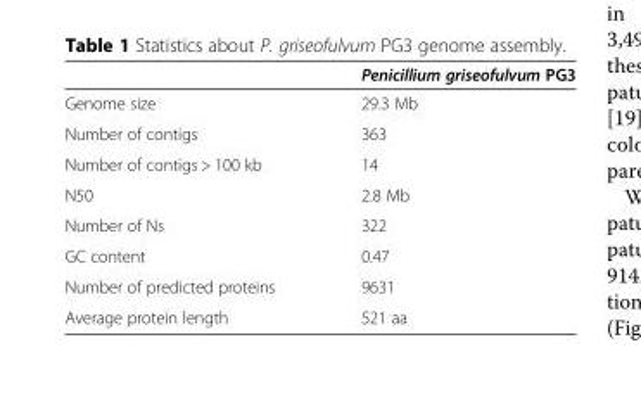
<table><thead><tr><td></td><td>Penicillium griseofulvum PG3</td></tr></thead><tbody><tr><td>Genome size</td><td>29.3 Mb</td></tr><tr><td>Number of contigs</td><td>363</td></tr><tr><td>Number of contigs &gt; 100 kb</td><td>14</td></tr><tr><td>N50</td><td>2.8 Mb</td></tr><tr><td>Number of Ns</td><td>322</td></tr><tr><td>GC content</td><td>0.47</td></tr><tr><td>Number of predicted proteins</td><td>9631</td></tr><tr><td>Average protein length</td><td>521 aa</td></tr></tbody></table>